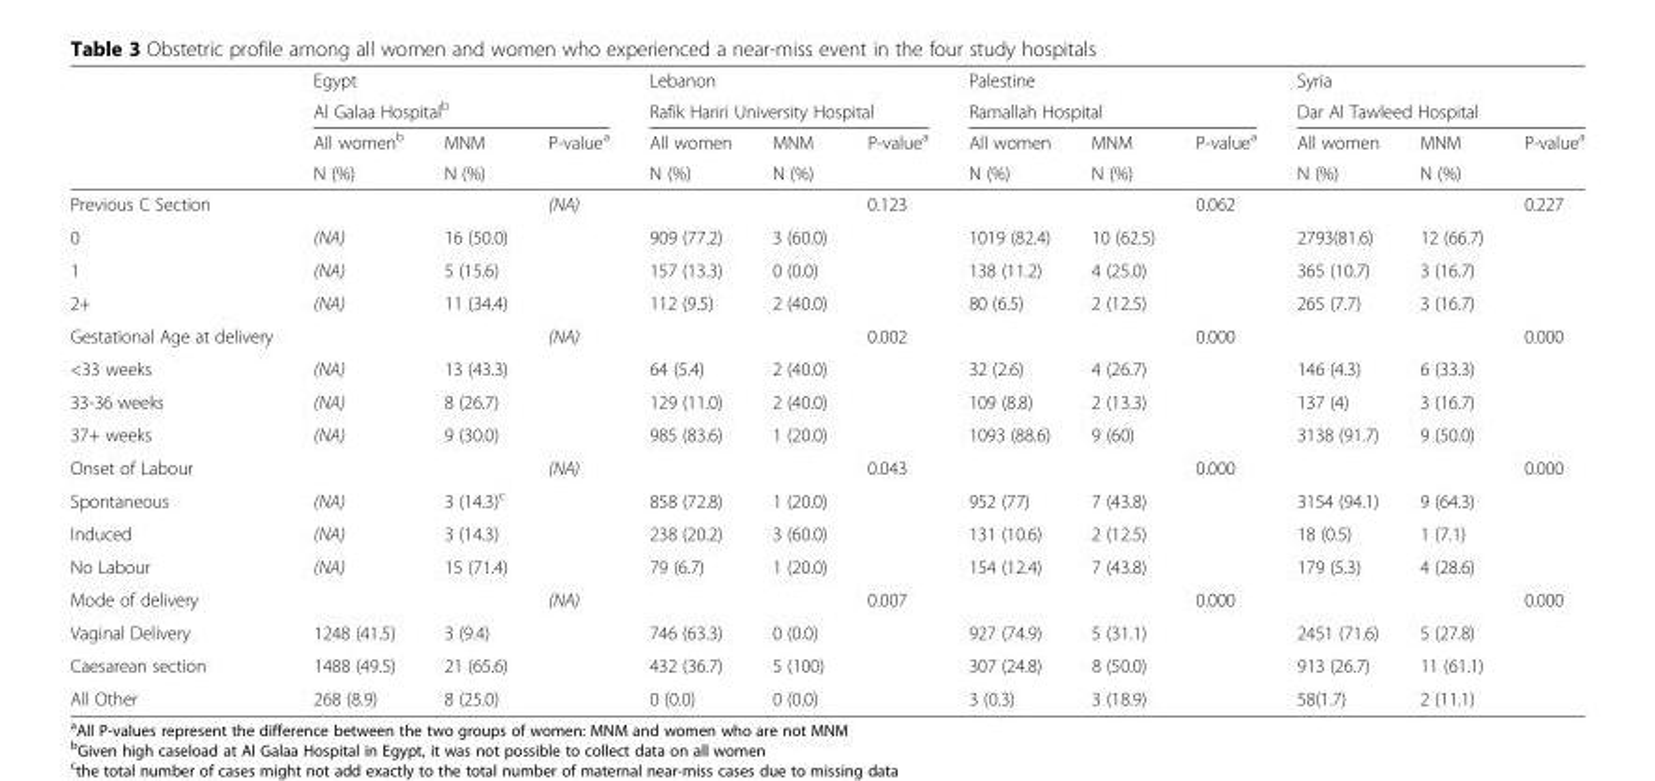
<table><thead><tr><td rowspan="4"></td><td rowspan="2" colspan="3">Egypt Al Galaa Hospital<sup>b</sup></td><td rowspan="2" colspan="3">Lebanon Rafik Hariri University Hospital</td><td rowspan="2" colspan="3">Palestine Ramallah Hospital</td><td rowspan="2" colspan="3">Syria Dar Al Tawleed Hospital</td></tr><tr></tr><tr><td rowspan="2">All women<sup>b</sup> N (%)</td><td rowspan="2">MNM N (%)</td><td rowspan="2">P-value<sup>a</sup></td><td rowspan="2">All women N (%)</td><td rowspan="2">MNM N (%)</td><td rowspan="2">P-value<sup>a</sup></td><td rowspan="2">All women N (%)</td><td rowspan="2">MNM N (%)</td><td rowspan="2">P-value<sup>a</sup></td><td rowspan="2">All women N (%)</td><td rowspan="2">MNM N (%)</td><td rowspan="2">P-value<sup>a</sup></td></tr><tr></tr></thead><tbody><tr><td>Previous C Section</td><td></td><td></td><td>(NA)</td><td></td><td></td><td>0.123</td><td></td><td></td><td>0.062</td><td></td><td></td><td>0.227</td></tr><tr><td>0</td><td>(NA)</td><td>16 (50.0)</td><td></td><td>909 (77.2)</td><td>3 (60.0)</td><td></td><td>1019 (82.4)</td><td>10 (62.5)</td><td></td><td>2793(81.6)</td><td>12 (66.7)</td><td></td></tr><tr><td>1</td><td>(NA)</td><td>5 (15.6)</td><td></td><td>157 (13.3)</td><td>0 (0.0)</td><td></td><td>138 (11.2)</td><td>4 (25.0)</td><td></td><td>365 (10.7)</td><td>3 (16.7)</td><td></td></tr><tr><td>2+</td><td>(NA)</td><td>11 (34.4)</td><td></td><td>112 (9.5)</td><td>2 (40.0)</td><td></td><td>80 (6.5)</td><td>2 (12.5)</td><td></td><td>265 (7.7)</td><td>3 (16.7)</td><td></td></tr><tr><td>Gestational Age at delivery</td><td></td><td></td><td>(NA)</td><td></td><td></td><td>0.002</td><td></td><td></td><td>0.000</td><td></td><td></td><td>0.000</td></tr><tr><td>&lt;33 weeks</td><td>(NA)</td><td>13 (43.3)</td><td></td><td>64 (5.4)</td><td>2 (40.0)</td><td></td><td>32 (2.6)</td><td>4 (26.7)</td><td></td><td>146 (4.3)</td><td>6 (33.3)</td><td></td></tr><tr><td>33-36 weeks</td><td>(NA)</td><td>8 (26.7)</td><td></td><td>129 (11.0)</td><td>2 (40.0)</td><td></td><td>109 (8.8)</td><td>2 (13.3)</td><td></td><td>137 (4)</td><td>3 (16.7)</td><td></td></tr><tr><td>37+ weeks</td><td>(NA)</td><td>9 (30.0)</td><td></td><td>985 (83.6)</td><td>1 (20.0)</td><td></td><td>1093 (88.6)</td><td>9 (60)</td><td></td><td>3138 (91.7)</td><td>9 (50.0)</td><td></td></tr><tr><td>Onset of Labour</td><td></td><td></td><td>(NA)</td><td></td><td></td><td>0.043</td><td></td><td></td><td>0.000</td><td></td><td></td><td>0.000</td></tr><tr><td>Spontaneous</td><td>(NA)</td><td>3 (14.3)<sup>c</sup></td><td></td><td>858 (72.8)</td><td>1 (20.0)</td><td></td><td>952 (77)</td><td>7 (43.8)</td><td></td><td>3154 (94.1)</td><td>9 (64.3)</td><td></td></tr><tr><td>Induced</td><td>(NA)</td><td>3 (14.3)</td><td></td><td>238 (20.2)</td><td>3 (60.0)</td><td></td><td>131 (10.6)</td><td>2 (12.5)</td><td></td><td>18 (0.5)</td><td>1 (7.1)</td><td></td></tr><tr><td>No Labour</td><td>(NA)</td><td>15 (71.4)</td><td></td><td>79 (6.7)</td><td>1 (20.0)</td><td></td><td>154 (12.4)</td><td>7 (43.8)</td><td></td><td>179 (5.3)</td><td>4 (28.6)</td><td></td></tr><tr><td>Mode of delivery</td><td></td><td></td><td>(NA)</td><td></td><td></td><td>0.007</td><td></td><td></td><td>0.000</td><td></td><td></td><td>0.000</td></tr><tr><td>Vaginal Delivery</td><td>1248 (41.5)</td><td>3 (9.4)</td><td></td><td>746 (63.3)</td><td>0 (0.0)</td><td></td><td>927 (74.9)</td><td>5 (31.1)</td><td></td><td>2451 (71.6)</td><td>5 (27.8)</td><td></td></tr><tr><td>Caesarean section</td><td>1488 (49.5)</td><td>21 (65.6)</td><td></td><td>432 (36.7)</td><td>5 (100)</td><td></td><td>307 (24.8)</td><td>8 (50.0)</td><td></td><td>913 (26.7)</td><td>11 (61.1)</td><td></td></tr><tr><td>All Other</td><td>268 (8.9)</td><td>8 (25.0)</td><td></td><td>0 (0.0)</td><td>0 (0.0)</td><td></td><td>3 (0.3)</td><td>3 (18.9)</td><td></td><td>58(1.7)</td><td>2 (11.1)</td><td></td></tr></tbody></table>